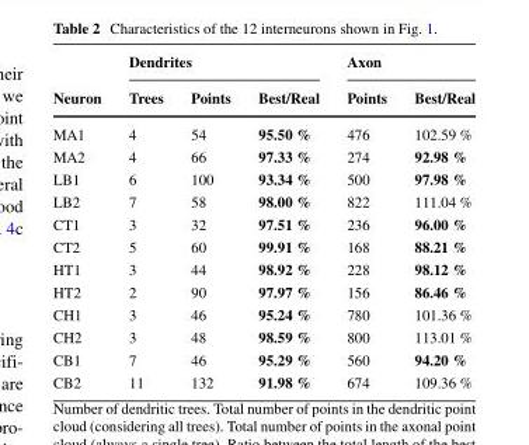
<table><thead><tr><td rowspan="2">Neuron</td><td colspan="3">Dendrites</td><td colspan="2">Axon</td></tr><tr><td>Trees</td><td>Points</td><td>Best/Real</td><td>Points</td><td>Best/Real</td></tr></thead><tbody><tr><td>MA1</td><td>4</td><td>54</td><td>95.50 %</td><td>476</td><td>102.59 %</td></tr><tr><td>MA2</td><td>4</td><td>66</td><td>97.33 %</td><td>274</td><td>92.98 %</td></tr><tr><td>LB1</td><td>6</td><td>100</td><td>93.34 %</td><td>500</td><td>97.98 %</td></tr><tr><td>LB2</td><td>7</td><td>58</td><td>98.00 %</td><td>822</td><td>111.04 %</td></tr><tr><td>CT1</td><td>3</td><td>32</td><td>97.51 %</td><td>236</td><td>96.00 %</td></tr><tr><td>CT2</td><td>5</td><td>60</td><td>99.91 %</td><td>168</td><td>88.21 %</td></tr><tr><td>HT1</td><td>3</td><td>44</td><td>98.92 %</td><td>228</td><td>98.12 %</td></tr><tr><td>HT2</td><td>2</td><td>90</td><td>97.97 %</td><td>156</td><td>86.46 %</td></tr><tr><td>CH1</td><td>3</td><td>46</td><td>95.24 %</td><td>780</td><td>101.36 %</td></tr><tr><td>CH2</td><td>3</td><td>48</td><td>98.59 %</td><td>800</td><td>113.01 %</td></tr><tr><td>CB1</td><td>7</td><td>46</td><td>95.29 %</td><td>560</td><td>94.20 %</td></tr><tr><td>CB2</td><td>11</td><td>132</td><td>91.98 %</td><td>674</td><td>109.36 %</td></tr></tbody></table>